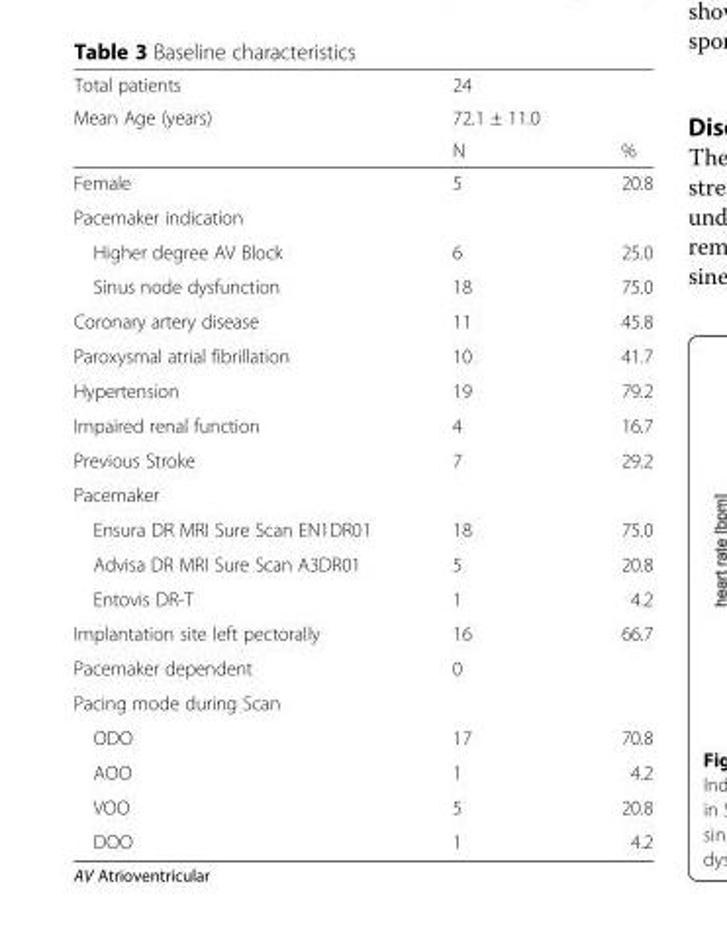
<table><thead><tr><td rowspan="3">Total patients Mean Age (years)</td><td rowspan="3">24 72.1 ± 11.0 N</td><td rowspan="3">%</td></tr><tr></tr><tr></tr></thead><tbody><tr><td>Female</td><td>5</td><td>20.8</td></tr><tr><td colspan="3">Pacemaker indication</td></tr><tr><td>Higher degree AV Block</td><td>6</td><td>25.0</td></tr><tr><td>Sinus node dysfunction</td><td>18</td><td>75.0</td></tr><tr><td>Coronary artery disease</td><td>11</td><td>45.8</td></tr><tr><td>Paroxysmal atrial fibrillation</td><td>10</td><td>41.7</td></tr><tr><td>Hypertension</td><td>19</td><td>79.2</td></tr><tr><td>Impaired renal function</td><td>4</td><td>16.7</td></tr><tr><td>Previous Stroke</td><td>7</td><td>29.2</td></tr><tr><td colspan="3">Pacemaker</td></tr><tr><td>Ensura DR MRI Sure Scan EN1DR01</td><td>18</td><td>75.0</td></tr><tr><td>Advisa DR MRI Sure Scan A3DR01</td><td>5</td><td>20.8</td></tr><tr><td>Entovis DR-T</td><td>1</td><td>4.2</td></tr><tr><td>Implantation site left pectorally</td><td>16</td><td>66.7</td></tr><tr><td>Pacemaker dependent</td><td>0</td><td></td></tr><tr><td colspan="3">Pacing mode during Scan</td></tr><tr><td>ODO</td><td>17</td><td>70.8</td></tr><tr><td>AOO</td><td>1</td><td>4.2</td></tr><tr><td>VOO</td><td>5</td><td>20.8</td></tr><tr><td>DOO</td><td>1</td><td>4.2</td></tr></tbody></table>